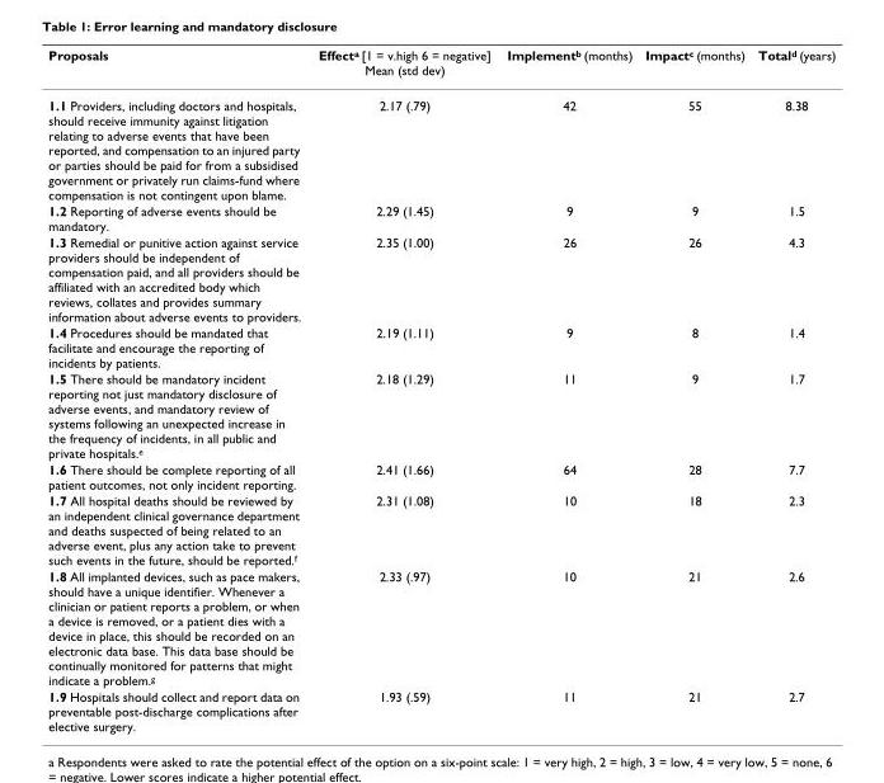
<table><thead><tr><td>Proposals</td><td>Effect<sup>a</sup> [1 = v.high 6 = negative] Mean (std dev)</td><td>Implement<sup>b</sup> (months)</td><td>Impact<sup>c</sup> (months)</td><td>Total<sup>d</sup> (years)</td></tr></thead><tbody><tr><td>1.1 Providers, including doctors and hospitals, should receive immunity against litigation relating to adverse events that have been reported, and compensation to an injured party or parties should be paid for from a subsidised government or privately run claims-fund where compensation is not contingent upon blame.</td><td>2.17 (.79)</td><td>42</td><td>55</td><td>8.38</td></tr><tr><td>1.2 Reporting of adverse events should be mandatory.</td><td>2.29 (1.45)</td><td>9</td><td>9</td><td>1.5</td></tr><tr><td>1.3 Remedial or punitive action against service providers should be independent of compensation paid, and all providers should be affiliated with an accredited body which reviews, collates and provides summary information about adverse events to providers.</td><td>2.35 (1.00)</td><td>26</td><td>26</td><td>4.3</td></tr><tr><td>1.4 Procedures should be mandated that facilitate and encourage the reporting of incidents by patients.</td><td>2.19 (1.11)</td><td>9</td><td>8</td><td>1.4</td></tr><tr><td>1.5 There should be mandatory incident reporting not just mandatory disclosure of adverse events, and mandatory review of systems following an unexpected increase in the frequency of incidents, in all public and private hospitals.<sup>e</sup></td><td>2.18 (1.29)</td><td>11</td><td>9</td><td>1.7</td></tr><tr><td>1.6 There should be complete reporting of all patient outcomes, not only incident reporting.</td><td>2.41 (1.66)</td><td>64</td><td>28</td><td>7.7</td></tr><tr><td>1.7 All hospital deaths should be reviewed by an independent clinical governance department and deaths suspected of being related to an adverse event, plus any action take to prevent such events in the future, should be reported.<sup>f</sup></td><td>2.31 (1.08)</td><td>10</td><td>18</td><td>2.3</td></tr><tr><td>1.8 All implanted devices, such as pace makers, should have a unique identifier. Whenever a clinician or patient reports a problem, or when a device is removed, or a patient dies with a device in place, this should be recorded on an electronic data base. This data base should be continually monitored for patterns that might indicate a problem.<sup>g</sup></td><td>2.33 (.97)</td><td>10</td><td>21</td><td>2.6</td></tr><tr><td>1.9 Hospitals should collect and report data on preventable post-discharge complications after elective surgery.</td><td>1.93 (.59)</td><td>11</td><td>21</td><td>2.7</td></tr></tbody></table>